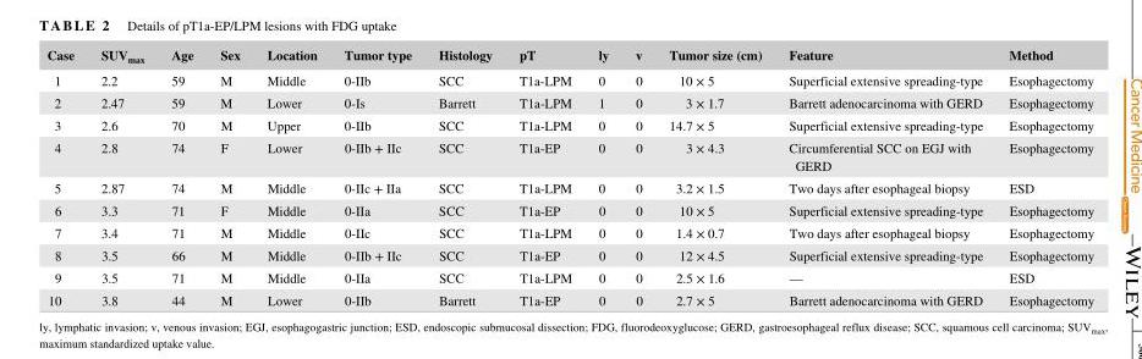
<table><thead><tr><td>Case</td><td>SUV<sub>max</sub></td><td>Age</td><td>Sex</td><td>Location</td><td>Tumor type</td><td>Histology</td><td>pT</td><td>ly</td><td>v</td><td>Tumor size (cm)</td><td>Feature</td><td>Method</td></tr></thead><tbody><tr><td>1</td><td>2.2</td><td>59</td><td>M</td><td>Middle</td><td>0- IIb</td><td>SCC</td><td>T1a- LPM</td><td>0</td><td>0</td><td>10 × 5</td><td>Superficial extensive spreading- type</td><td>Esophagectomy</td></tr><tr><td>2</td><td>2.47</td><td>59</td><td>M</td><td>Lower</td><td>0- Is</td><td>Barrett</td><td>T1a- LPM</td><td>1</td><td>0</td><td>3 × 1.7</td><td>Barrett adenocarcinoma with GERD</td><td>Esophagectomy</td></tr><tr><td>3</td><td>2.6</td><td>70</td><td>M</td><td>Upper</td><td>0- IIb</td><td>SCC</td><td>T1a- LPM</td><td>0</td><td>0</td><td>14.7 × 5</td><td>Superficial extensive spreading- type</td><td>Esophagectomy</td></tr><tr><td>4</td><td>2.8</td><td>74</td><td>F</td><td>Lower</td><td>0- IIb + IIc</td><td>SCC</td><td>T1a- EP</td><td>0</td><td>0</td><td>3 × 4.3</td><td>Circumferential SCC on EGJ with GERD</td><td>Esophagectomy</td></tr><tr><td>5</td><td>2.87</td><td>74</td><td>M</td><td>Middle</td><td>0- IIc + IIa</td><td>SCC</td><td>T1a- LPM</td><td>0</td><td>0</td><td>3.2 × 1.5</td><td>Two days after esophageal biopsy</td><td>ESD</td></tr><tr><td>6</td><td>3.3</td><td>71</td><td>F</td><td>Middle</td><td>0- IIa</td><td>SCC</td><td>T1a- EP</td><td>0</td><td>0</td><td>10 × 5</td><td>Superficial extensive spreading- type</td><td>Esophagectomy</td></tr><tr><td>7</td><td>3.4</td><td>71</td><td>M</td><td>Middle</td><td>0- IIc</td><td>SCC</td><td>T1a- LPM</td><td>0</td><td>0</td><td>1.4 × 0.7</td><td>Two days after esophageal biopsy</td><td>Esophagectomy</td></tr><tr><td>8</td><td>3.5</td><td>66</td><td>M</td><td>Middle</td><td>0- IIb + IIc</td><td>SCC</td><td>T1a- EP</td><td>0</td><td>0</td><td>12 × 4.5</td><td>Superficial extensive spreading- type</td><td>Esophagectomy</td></tr><tr><td>9</td><td>3.5</td><td>71</td><td>M</td><td>Middle</td><td>0- IIa</td><td>SCC</td><td>T1a- LPM</td><td>0</td><td>0</td><td>2.5 × 1.6</td><td>—</td><td>ESD</td></tr><tr><td>10</td><td>3.8</td><td>44</td><td>M</td><td>Lower</td><td>0- IIb</td><td>Barrett</td><td>T1a- EP</td><td>0</td><td>0</td><td>2.7 × 5</td><td>Barrett adenocarcinoma with GERD</td><td>Esophagectomy</td></tr></tbody></table>